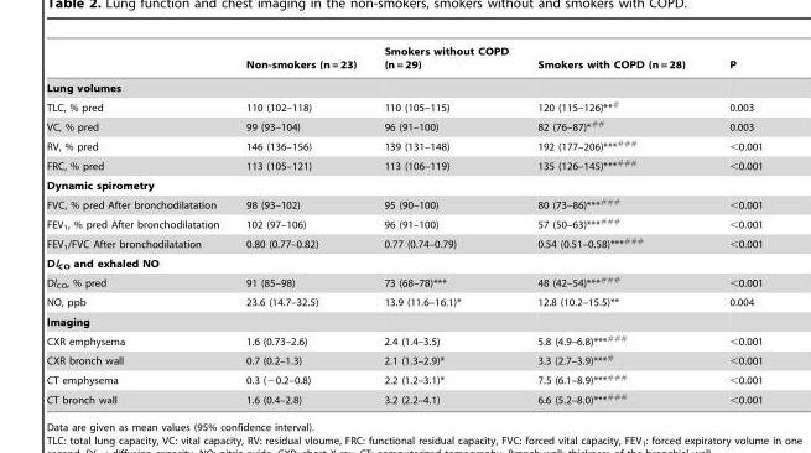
<table><thead><tr><td></td><td>Non-smokers (n = 23)</td><td>Smokers without COPD (n = 29)</td><td>Smokers with COPD (n = 28)</td><td>P</td></tr></thead><tbody><tr><td colspan="5">Lung volumes</td></tr><tr><td>TLC, % pred</td><td>110 (102–118)</td><td>110 (105–115)</td><td>120 (115–126)**<sup>#</sup></td><td>0.003</td></tr><tr><td>VC, % pred</td><td>99 (93–104)</td><td>96 (91–100)</td><td>82 (76–87)*<sup>##</sup></td><td>0.003</td></tr><tr><td>RV, % pred</td><td>146 (136–156)</td><td>139 (131–148)</td><td>192 (177–206)***<sup>###</sup></td><td>&lt;0.001</td></tr><tr><td>FRC, % pred</td><td>113 (105–121)</td><td>113 (106–119)</td><td>135 (126–145)***<sup>###</sup></td><td>&lt;0.001</td></tr><tr><td colspan="5">Dynamic spirometry</td></tr><tr><td>FVC, % pred After bronchodilatation</td><td>98 (93–102)</td><td>95 (90–100)</td><td>80 (73–86)***<sup>###</sup></td><td>&lt;0.001</td></tr><tr><td>FEV<sub>1</sub>, % pred After bronchodilatation</td><td>102 (97–106)</td><td>96 (91–100)</td><td>57 (50–63)***<sup>###</sup></td><td>&lt;0.001</td></tr><tr><td>FEV<sub>1</sub>/FVC After bronchodilatation</td><td>0.80 (0.77–0.82)</td><td>0.77 (0.74–0.79)</td><td>0.54 (0.51–0.58)***<sup>###</sup></td><td>&lt;0.001</td></tr><tr><td colspan="5">Dl<sub>CO</sub> and exhaled NO</td></tr><tr><td>Dl<sub>CO</sub>, % pred</td><td>91 (85–98)</td><td>73 (68–78)***</td><td>48 (42–54)***<sup>###</sup></td><td>&lt;0.001</td></tr><tr><td>NO, ppb</td><td>23.6 (14.7–32.5)</td><td>13.9 (11.6–16.1)*</td><td>12.8 (10.2–15.5)**</td><td>0.004</td></tr><tr><td colspan="5">Imaging</td></tr><tr><td>CXR emphysema</td><td>1.6 (0.73–2.6)</td><td>2.4 (1.4–3.5)</td><td>5.8 (4.9–6.8)***<sup>###</sup></td><td>&lt;0.001</td></tr><tr><td>CXR bronch wall</td><td>0.7 (0.2–1.3)</td><td>2.1 (1.3–2.9)*</td><td>3.3 (2.7–3.9)***<sup>#</sup></td><td>&lt;0.001</td></tr><tr><td>CT emphysema</td><td>0.3 (−0.2–0.8)</td><td>2.2 (1.2–3.1)*</td><td>7.5 (6.1–8.9)***<sup>###</sup></td><td>&lt;0.001</td></tr><tr><td>CT bronch wall</td><td>1.6 (0.4–2.8)</td><td>3.2 (2.2–4.1)</td><td>6.6 (5.2–8.0)***<sup>###</sup></td><td>&lt;0.001</td></tr></tbody></table>